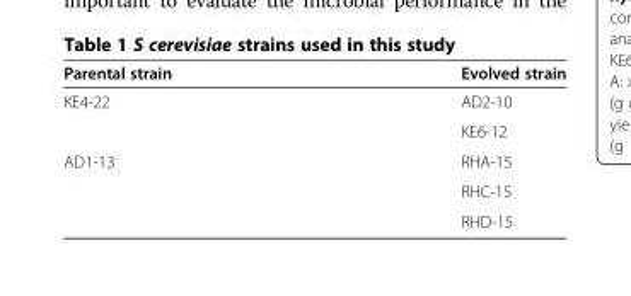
<table><thead><tr><td>Parental strain</td><td>Evolved strain</td></tr></thead><tbody><tr><td rowspan="2">KE4-22</td><td>AD2-10</td></tr><tr><td>KE6-12</td></tr><tr><td rowspan="3">AD1-13</td><td>RHA-15</td></tr><tr><td>RHC-15</td></tr><tr><td>RHD-15</td></tr></tbody></table>